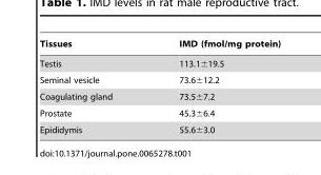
<table><thead><tr><td>Tissues</td><td>IMD (fmol/mg protein)</td></tr></thead><tbody><tr><td>Testis</td><td>113.1±19.5</td></tr><tr><td>Seminal vesicle</td><td>73.6±12.2</td></tr><tr><td>Coagulating gland</td><td>73.5±7.2</td></tr><tr><td>Prostate</td><td>45.3±6.4</td></tr><tr><td>Epididymis</td><td>55.6±3.0</td></tr></tbody></table>